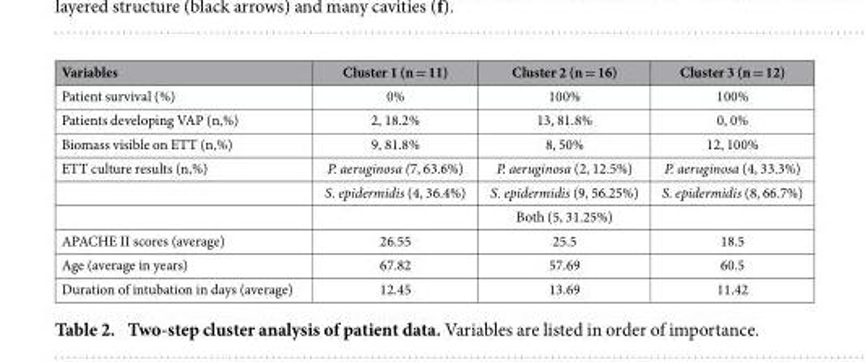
<table><thead><tr><td>Variables</td><td>Cluster 1 (n = 11)</td><td>Cluster 2 (n = 16)</td><td>Cluster 3 (n = 12)</td></tr></thead><tbody><tr><td>Patient survival (%)</td><td>0%</td><td>100%</td><td>100%</td></tr><tr><td>Patients developing VAP (n,%)</td><td>2, 18.2%</td><td>13, 81.8%</td><td>0, 0%</td></tr><tr><td>Biomass visible on ETT (n,%)</td><td>9, 81.8%</td><td>8, 50%</td><td>12, 100%</td></tr><tr><td rowspan="3">ETT culture results (n,%)</td><td>P. aeruginosa (7, 63.6%)</td><td>P. aeruginosa (2, 12.5%)</td><td>P. aeruginosa (4, 33.3%)</td></tr><tr><td>S. epidermidis (4, 36.4%)</td><td>S. epidermidis (9, 56.25%)</td><td>S. epidermidis (8, 66.7%)</td></tr><tr><td></td><td>Both (5, 31.25%)</td><td></td></tr><tr><td>APACHE II scores (average)</td><td>26.55</td><td>25.5</td><td>18.5</td></tr><tr><td>Age (average in years)</td><td>67.82</td><td>57.69</td><td>60.5</td></tr><tr><td>Duration of intubation in days (average)</td><td>12.45</td><td>13.69</td><td>11.42</td></tr></tbody></table>